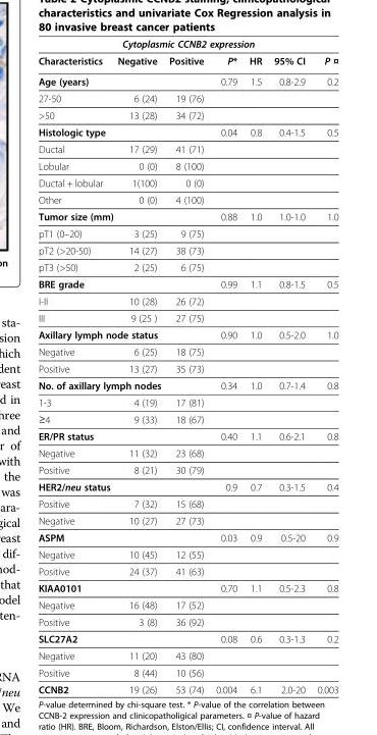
<table><thead><tr><td colspan="7">Cytoplasmic CCNB2 expression</td></tr><tr><td>Characteristics</td><td>Negative</td><td>Positive</td><td>P*</td><td>HR</td><td>95% CI</td><td>P ¤</td></tr></thead><tbody><tr><td>Age (years)</td><td></td><td></td><td>0.79</td><td>1.5</td><td>0.8-2.9</td><td>0.2</td></tr><tr><td>27-50</td><td>6 (24)</td><td>19 (76)</td><td></td><td></td><td></td><td></td></tr><tr><td>&gt;50</td><td>13 (28)</td><td>34 (72)</td><td></td><td></td><td></td><td></td></tr><tr><td>Histologic type</td><td></td><td></td><td>0.04</td><td>0.8</td><td>0.4-1.5</td><td>0.5</td></tr><tr><td>Ductal</td><td>17 (29)</td><td>41 (71)</td><td></td><td></td><td></td><td></td></tr><tr><td>Lobular</td><td>0 (0)</td><td>8 (100)</td><td></td><td></td><td></td><td></td></tr><tr><td>Ductal + lobular</td><td>1(100)</td><td>0 (0)</td><td></td><td></td><td></td><td></td></tr><tr><td>Other</td><td>0 (0)</td><td>4 (100)</td><td></td><td></td><td></td><td></td></tr><tr><td colspan="2">Tumor size (mm)</td><td></td><td>0.88</td><td>1.0</td><td>1.0-1.0</td><td>1.0</td></tr><tr><td>pT1 (0–20)</td><td>3 (25)</td><td>9 (75)</td><td></td><td></td><td></td><td></td></tr><tr><td>pT2 (&gt;20-50)</td><td>14 (27)</td><td>38 (73)</td><td></td><td></td><td></td><td></td></tr><tr><td>pT3 (&gt;50)</td><td>2 (25)</td><td>6 (75)</td><td></td><td></td><td></td><td></td></tr><tr><td>BRE grade</td><td></td><td></td><td>0.99</td><td>1.1</td><td>0.8-1.5</td><td>0.5</td></tr><tr><td>I-II</td><td>10 (28)</td><td>26 (72)</td><td></td><td></td><td></td><td></td></tr><tr><td>III</td><td>9 (25 )</td><td>27 (75)</td><td></td><td></td><td></td><td></td></tr><tr><td colspan="3">Axillary lymph node status</td><td>0.90</td><td>1.0</td><td>0.5-2.0</td><td>1.0</td></tr><tr><td>Negative</td><td>6 (25)</td><td>18 (75)</td><td></td><td></td><td></td><td></td></tr><tr><td>Positive</td><td>13 (27)</td><td>35 (73)</td><td></td><td></td><td></td><td></td></tr><tr><td colspan="3">No. of axillary lymph nodes</td><td>0.34</td><td>1.0</td><td>0.7-1.4</td><td>0.8</td></tr><tr><td>1-3</td><td>4 (19)</td><td>17 (81)</td><td></td><td></td><td></td><td></td></tr><tr><td>≥4</td><td>9 (33)</td><td>18 (67)</td><td></td><td></td><td></td><td></td></tr><tr><td>ER/PR status</td><td></td><td></td><td>0.40</td><td>1.1</td><td>0.6-2.1</td><td>0.8</td></tr><tr><td>Negative</td><td>11 (32)</td><td>23 (68)</td><td></td><td></td><td></td><td></td></tr><tr><td>Positive</td><td>8 (21)</td><td>30 (79)</td><td></td><td></td><td></td><td></td></tr><tr><td colspan="3">HER2/neu status</td><td>0.9</td><td>0.7</td><td>0.3-1.5</td><td>0.4</td></tr><tr><td>Positive</td><td>7 (32)</td><td>15 (68)</td><td></td><td></td><td></td><td></td></tr><tr><td>Negative</td><td>10 (27)</td><td>27 (73)</td><td></td><td></td><td></td><td></td></tr><tr><td>ASPM</td><td></td><td></td><td>0.03</td><td>0.9</td><td>0.5-20</td><td>0.9</td></tr><tr><td>Negative</td><td>10 (45)</td><td>12 (55)</td><td></td><td></td><td></td><td></td></tr><tr><td>Positive</td><td>24 (37)</td><td>41 (63)</td><td></td><td></td><td></td><td></td></tr><tr><td>KIAA0101</td><td></td><td></td><td>0.70</td><td>1.1</td><td>0.5-2.3</td><td>0.8</td></tr><tr><td>Negative</td><td>16 (48)</td><td>17 (52)</td><td></td><td></td><td></td><td></td></tr><tr><td>Positive</td><td>3 (8)</td><td>36 (92)</td><td></td><td></td><td></td><td></td></tr><tr><td>SLC27A2</td><td></td><td></td><td>0.08</td><td>0.6</td><td>0.3-1.3</td><td>0.2</td></tr><tr><td>Negative</td><td>11 (20)</td><td>43 (80)</td><td></td><td></td><td></td><td></td></tr><tr><td>Positive</td><td>8 (44)</td><td>10 (56)</td><td></td><td></td><td></td><td></td></tr><tr><td>CCNB2</td><td>19 (26)</td><td>53 (74)</td><td>0.004</td><td>6.1</td><td>2.0-20</td><td>0.003</td></tr></tbody></table>